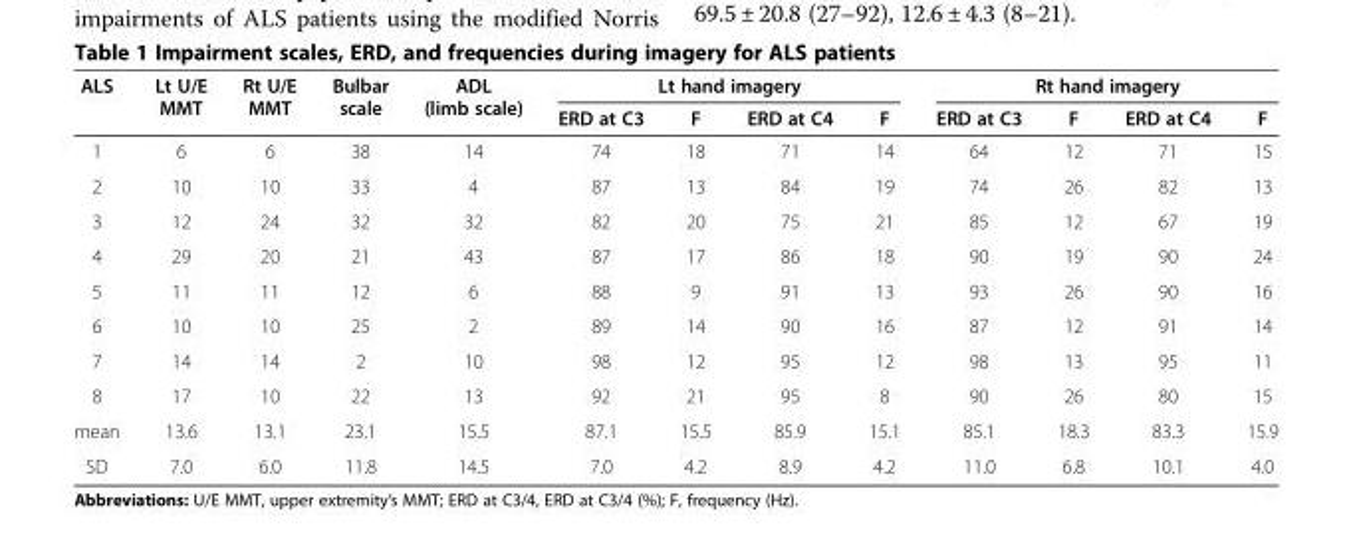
<table><thead><tr><td rowspan="2">ALS</td><td rowspan="2">Lt U/E MMT</td><td rowspan="2">Rt U/E MMT</td><td rowspan="2">Bulbar scale</td><td rowspan="2">ADL (limb scale)</td><td colspan="4">Lt hand imagery</td><td colspan="4">Rt hand imagery</td></tr><tr><td>ERD at C3</td><td>F</td><td>ERD at C4</td><td>F</td><td>ERD at C3</td><td>F</td><td>ERD at C4</td><td>F</td></tr></thead><tbody><tr><td>1</td><td>6</td><td>6</td><td>38</td><td>14</td><td>74</td><td>18</td><td>71</td><td>14</td><td>64</td><td>12</td><td>71</td><td>15</td></tr><tr><td>2</td><td>10</td><td>10</td><td>33</td><td>4</td><td>87</td><td>13</td><td>84</td><td>19</td><td>74</td><td>26</td><td>82</td><td>13</td></tr><tr><td>3</td><td>12</td><td>24</td><td>32</td><td>32</td><td>82</td><td>20</td><td>75</td><td>21</td><td>85</td><td>12</td><td>67</td><td>19</td></tr><tr><td>4</td><td>29</td><td>20</td><td>21</td><td>43</td><td>87</td><td>17</td><td>86</td><td>18</td><td>90</td><td>19</td><td>90</td><td>24</td></tr><tr><td>5</td><td>11</td><td>11</td><td>12</td><td>6</td><td>88</td><td>9</td><td>91</td><td>13</td><td>93</td><td>26</td><td>90</td><td>16</td></tr><tr><td>6</td><td>10</td><td>10</td><td>25</td><td>2</td><td>89</td><td>14</td><td>90</td><td>16</td><td>87</td><td>12</td><td>91</td><td>14</td></tr><tr><td>7</td><td>14</td><td>14</td><td>2</td><td>10</td><td>98</td><td>12</td><td>95</td><td>12</td><td>98</td><td>13</td><td>95</td><td>11</td></tr><tr><td>8</td><td>17</td><td>10</td><td>22</td><td>13</td><td>92</td><td>21</td><td>95</td><td>8</td><td>90</td><td>26</td><td>80</td><td>15</td></tr><tr><td>mean</td><td>13.6</td><td>13.1</td><td>23.1</td><td>15.5</td><td>87.1</td><td>15.5</td><td>85.9</td><td>15.1</td><td>85.1</td><td>18.3</td><td>83.3</td><td>15.9</td></tr><tr><td>SD</td><td>7.0</td><td>6.0</td><td>11.8</td><td>14.5</td><td>7.0</td><td>4.2</td><td>8.9</td><td>4.2</td><td>11.0</td><td>6.8</td><td>10.1</td><td>4.0</td></tr></tbody></table>